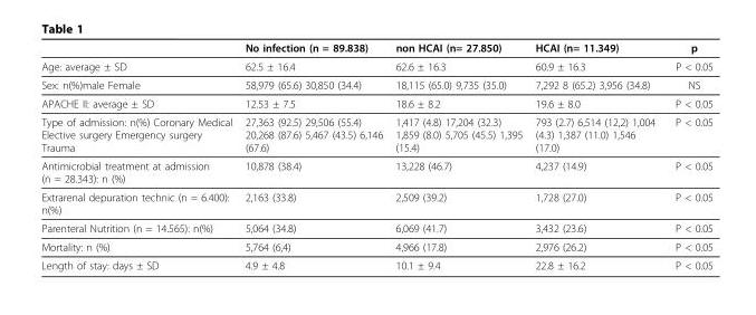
<table><thead><tr><td></td><td>No infection (n = 89.838)</td><td>non HCAI (n= 27.850)</td><td>HCAI (n= 11.349)</td><td>p</td></tr></thead><tbody><tr><td>Age: average ± SD</td><td>62.5 ± 16.4</td><td>62.6 ± 16.3</td><td>60.9 ± 16.3</td><td>P &lt; 0.05</td></tr><tr><td>Sex: n(%)male Female</td><td>58,979 (65.6) 30,850 (34.4)</td><td>18,115 (65.0) 9,735 (35.0)</td><td>7,292 8 (65.2) 3,956 (34.8)</td><td>NS</td></tr><tr><td>APACHE II: average ± SD</td><td>12.53 ± 7.5</td><td>18.6 ± 8.2</td><td>19.6 ± 8.0</td><td>P &lt; 0.05</td></tr><tr><td>Type of admission: n(%) Coronary Medical Elective surgery Emergency surgery Trauma</td><td>27,363 (92.5) 29,506 (55.4) 20,268 (87.6) 5,467 (43.5) 6,146 (67.6)</td><td>1,417 (4.8) 17,204 (32.3) 1,859 (8.0) 5,705 (45.5) 1,395 (15.4)</td><td>793 (2.7) 6,514 (12,2) 1,004 (4.3) 1,387 (11.0) 1,546 (17.0)</td><td>P &lt; 0.05</td></tr><tr><td>Antimicrobial treatment at admission (n = 28.343): n (%)</td><td>10,878 (38.4)</td><td>13,228 (46.7)</td><td>4,237 (14.9)</td><td>P &lt; 0.05</td></tr><tr><td>Extrarenal depuration technic (n = 6.400): n(%)</td><td>2,163 (33.8)</td><td>2,509 (39.2)</td><td>1,728 (27.0)</td><td>P &lt; 0.05</td></tr><tr><td>Parenteral Nutrition (n = 14.565): n(%)</td><td>5,064 (34.8)</td><td>6,069 (41.7)</td><td>3,432 (23.6)</td><td>P &lt; 0.05</td></tr><tr><td>Mortality: n (%)</td><td>5,764 (6,4)</td><td>4,966 (17.8)</td><td>2,976 (26.2)</td><td>P &lt; 0.05</td></tr><tr><td>Length of stay: days ± SD</td><td>4.9 ± 4.8</td><td>10.1 ± 9.4</td><td>22.8 ± 16.2</td><td>P &lt; 0.05</td></tr></tbody></table>